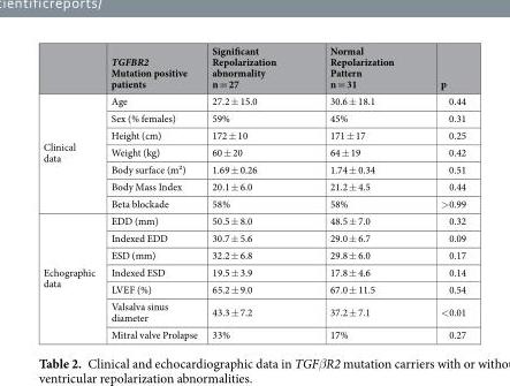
<table><thead><tr><td></td><td>TGFBR2 Mutation positive patients</td><td>Significant Repolarization abnormality n = 27</td><td>Normal Repolarization Pattern n = 31</td><td>p</td></tr></thead><tbody><tr><td rowspan="7">Clinical data</td><td>Age</td><td>27.2 ± 15.0</td><td>30.6 ± 18.1</td><td>0.44</td></tr><tr><td>Sex (% females)</td><td>59%</td><td>45%</td><td>0.31</td></tr><tr><td>Height (cm)</td><td>172 ± 10</td><td>171 ± 17</td><td>0.25</td></tr><tr><td>Weight (kg)</td><td>60 ± 20</td><td>64 ± 19</td><td>0.42</td></tr><tr><td>Body surface (m²)</td><td>1.69 ± 0.26</td><td>1.74 ± 0.34</td><td>0.51</td></tr><tr><td>Body Mass Index</td><td>20.1 ± 6.0</td><td>21.2 ± 4.5</td><td>0.44</td></tr><tr><td>Beta blockade</td><td>58%</td><td>58%</td><td>&gt;0.99</td></tr><tr><td rowspan="7">Echographic data</td><td>EDD (mm)</td><td>50.5 ± 8.0</td><td>48.5 ± 7.0</td><td>0.32</td></tr><tr><td>Indexed EDD</td><td>30.7 ± 5.6</td><td>29.0 ± 6.7</td><td>0.09</td></tr><tr><td>ESD (mm)</td><td>32.2 ± 6.8</td><td>29.8 ± 6.0</td><td>0.17</td></tr><tr><td>Indexed ESD</td><td>19.5 ± 3.9</td><td>17.8 ± 4.6</td><td>0.14</td></tr><tr><td>LVEF (%)</td><td>65.2 ± 9.0</td><td>67.0 ± 11.5</td><td>0.54</td></tr><tr><td>Valsalva sinus diameter</td><td>43.3 ± 7.2</td><td>37.2 ± 7.1</td><td>&lt;0.01</td></tr><tr><td>Mitral valve Prolapse</td><td>33%</td><td>17%</td><td>0.27</td></tr></tbody></table>